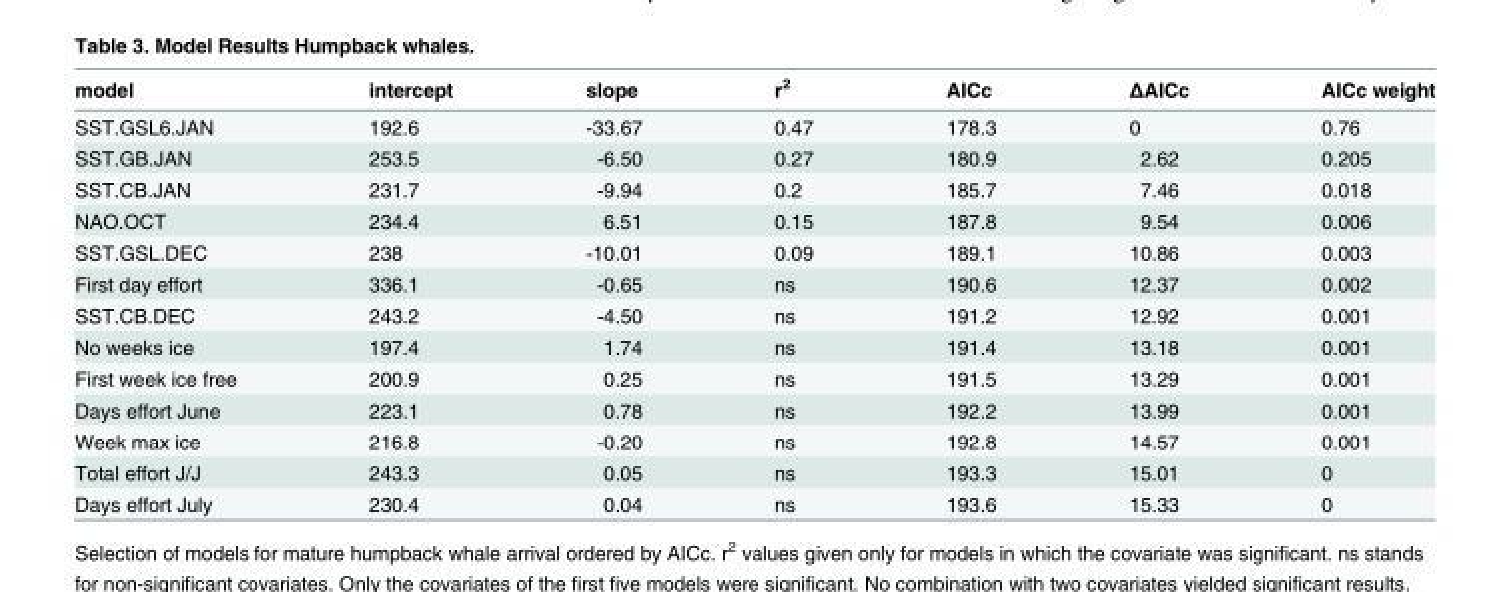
<table><thead><tr><td>model</td><td>intercept</td><td>slope</td><td>r<sup>2</sup></td><td>AICc</td><td>ΔAICc</td><td>AICc weight</td></tr></thead><tbody><tr><td>SST.GSL6.JAN</td><td>192.6</td><td>-33.67</td><td>0.47</td><td>178.3</td><td>0</td><td>0.76</td></tr><tr><td>SST.GB.JAN</td><td>253.5</td><td>-6.50</td><td>0.27</td><td>180.9</td><td>2.62</td><td>0.205</td></tr><tr><td>SST.CB.JAN</td><td>231.7</td><td>-9.94</td><td>0.2</td><td>185.7</td><td>7.46</td><td>0.018</td></tr><tr><td>NAO.OCT</td><td>234.4</td><td>6.51</td><td>0.15</td><td>187.8</td><td>9.54</td><td>0.006</td></tr><tr><td>SST.GSL.DEC</td><td>238</td><td>-10.01</td><td>0.09</td><td>189.1</td><td>10.86</td><td>0.003</td></tr><tr><td>First day effort</td><td>336.1</td><td>-0.65</td><td>ns</td><td>190.6</td><td>12.37</td><td>0.002</td></tr><tr><td>SST.CB.DEC</td><td>243.2</td><td>-4.50</td><td>ns</td><td>191.2</td><td>12.92</td><td>0.001</td></tr><tr><td>No weeks ice</td><td>197.4</td><td>1.74</td><td>ns</td><td>191.4</td><td>13.18</td><td>0.001</td></tr><tr><td>First week ice free</td><td>200.9</td><td>0.25</td><td>ns</td><td>191.5</td><td>13.29</td><td>0.001</td></tr><tr><td>Days effort June</td><td>223.1</td><td>0.78</td><td>ns</td><td>192.2</td><td>13.99</td><td>0.001</td></tr><tr><td>Week max ice</td><td>216.8</td><td>-0.20</td><td>ns</td><td>192.8</td><td>14.57</td><td>0.001</td></tr><tr><td>Total effort J/J</td><td>243.3</td><td>0.05</td><td>ns</td><td>193.3</td><td>15.01</td><td>0</td></tr><tr><td>Days effort July</td><td>230.4</td><td>0.04</td><td>ns</td><td>193.6</td><td>15.33</td><td>0</td></tr></tbody></table>